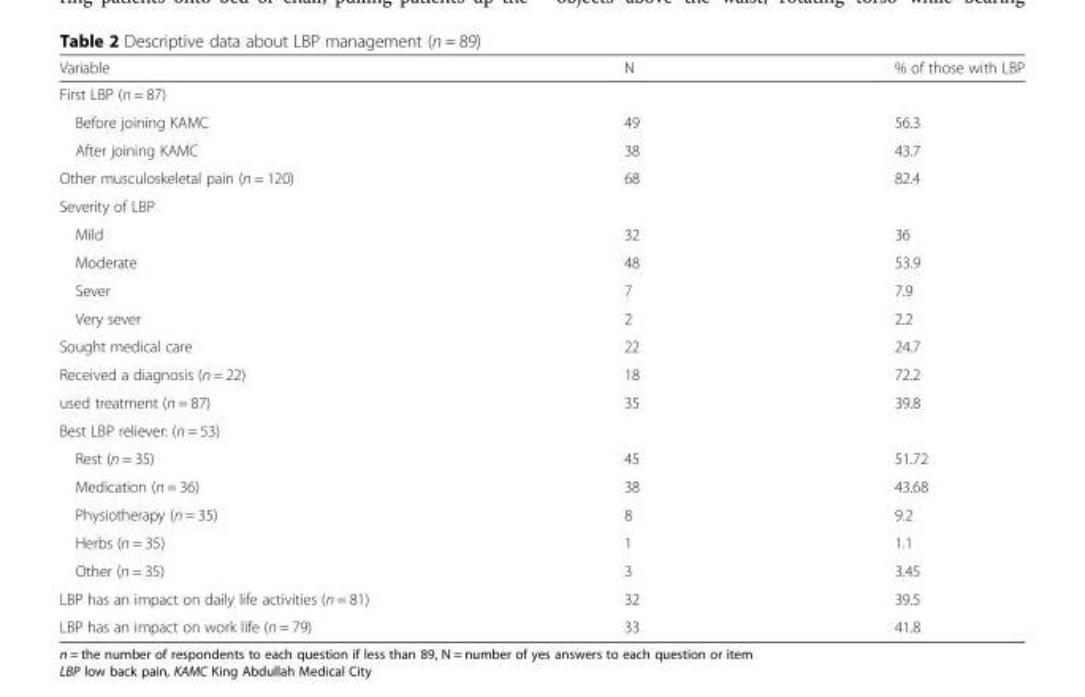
<table><thead><tr><td>Variable</td><td>N</td><td>% of those with LBP</td></tr></thead><tbody><tr><td colspan="3">First LBP (n = 87)</td></tr><tr><td>Before joining KAMC</td><td>49</td><td>56.3</td></tr><tr><td>After joining KAMC</td><td>38</td><td>43.7</td></tr><tr><td>Other musculoskeletal pain (n = 120)</td><td>68</td><td>82.4</td></tr><tr><td colspan="3">Severity of LBP</td></tr><tr><td>Mild</td><td>32</td><td>36</td></tr><tr><td>Moderate</td><td>48</td><td>53.9</td></tr><tr><td>Sever</td><td>7</td><td>7.9</td></tr><tr><td>Very sever</td><td>2</td><td>2.2</td></tr><tr><td>Sought medical care</td><td>22</td><td>24.7</td></tr><tr><td>Received a diagnosis (n = 22)</td><td>18</td><td>72.2</td></tr><tr><td>used treatment (n = 87)</td><td>35</td><td>39.8</td></tr><tr><td colspan="3">Best LBP reliever: (n = 53)</td></tr><tr><td>Rest (n = 35)</td><td>45</td><td>51.72</td></tr><tr><td>Medication (n = 36)</td><td>38</td><td>43.68</td></tr><tr><td>Physiotherapy (n = 35)</td><td>8</td><td>9.2</td></tr><tr><td>Herbs (n = 35)</td><td>1</td><td>1.1</td></tr><tr><td>Other (n = 35)</td><td>3</td><td>3.45</td></tr><tr><td>LBP has an impact on daily life activities (n = 81)</td><td>32</td><td>39.5</td></tr><tr><td>LBP has an impact on work life (n = 79)</td><td>33</td><td>41.8</td></tr></tbody></table>